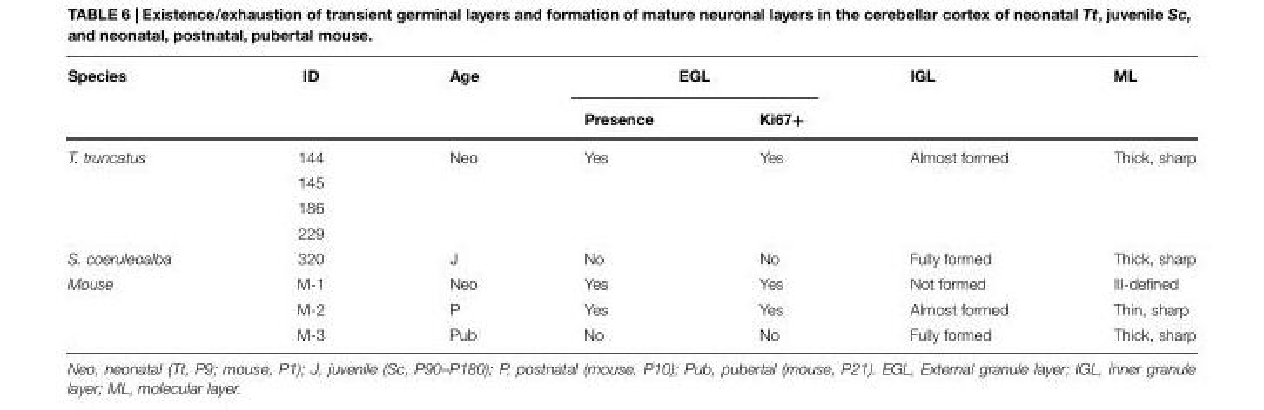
<table><thead><tr><td rowspan="2">Species</td><td rowspan="2">ID</td><td rowspan="2">Age</td><td colspan="2">EGL</td><td rowspan="2">IGL</td><td rowspan="2">ML</td></tr><tr><td>Presence</td><td>Ki67+</td></tr></thead><tbody><tr><td rowspan="4">T. truncatus</td><td>144</td><td>Neo</td><td>Yes</td><td>Yes</td><td>Almost formed</td><td>Thick, sharp</td></tr><tr><td>145</td><td></td><td></td><td></td><td></td><td></td></tr><tr><td>186</td><td></td><td></td><td></td><td></td><td></td></tr><tr><td>229</td><td></td><td></td><td></td><td></td><td></td></tr><tr><td>S. coeruleoalba</td><td>320</td><td>J</td><td>No</td><td>No</td><td>Fully formed</td><td>Thick, sharp</td></tr><tr><td rowspan="3">Mouse</td><td>M-1</td><td>Neo</td><td>Yes</td><td>Yes</td><td>Not formed</td><td>Ill-defined</td></tr><tr><td>M-2</td><td>P</td><td>Yes</td><td>Yes</td><td>Almost formed</td><td>Thin, sharp</td></tr><tr><td>M-3</td><td>Pub</td><td>No</td><td>No</td><td>Fully formed</td><td>Thick, sharp</td></tr></tbody></table>